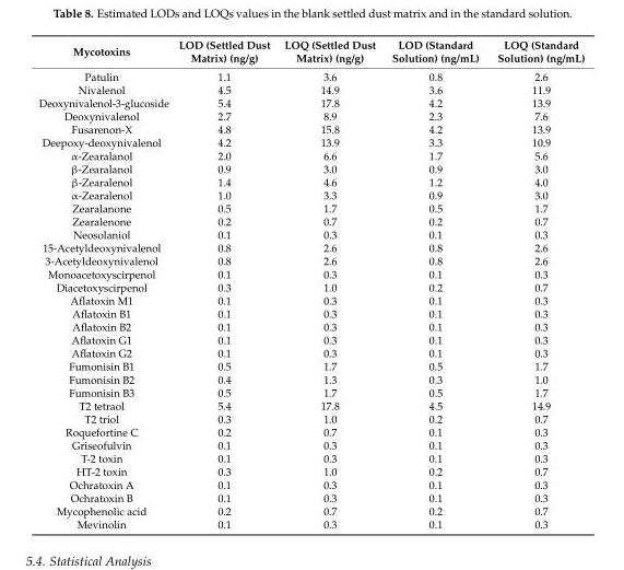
<table><thead><tr><td>Mycotoxins</td><td>LOD (Settled Dust Matrix) (ng/g)</td><td>LOQ (Settled Dust Matrix) (ng/g)</td><td>LOD (Standard Solution) (ng/mL)</td><td>LOQ (Standard Solution) (ng/mL)</td></tr></thead><tbody><tr><td>Patulin</td><td>1.1</td><td>3.6</td><td>0.8</td><td>2.6</td></tr><tr><td>Nivalenol</td><td>4.5</td><td>14.9</td><td>3.6</td><td>11.9</td></tr><tr><td>Deoxynivalenol-3-glucoside</td><td>5.4</td><td>17.8</td><td>4.2</td><td>13.9</td></tr><tr><td>Deoxynivalenol</td><td>2.7</td><td>8.9</td><td>2.3</td><td>7.6</td></tr><tr><td>Fusarenon-X</td><td>4.8</td><td>15.8</td><td>4.2</td><td>13.9</td></tr><tr><td>Deepoxy-deoxynivalenol</td><td>4.2</td><td>13.9</td><td>3.3</td><td>10.9</td></tr><tr><td>α-Zearalanol</td><td>2.0</td><td>6.6</td><td>1.7</td><td>5.6</td></tr><tr><td>β-Zearalanol</td><td>0.9</td><td>3.0</td><td>0.9</td><td>3.0</td></tr><tr><td>β-Zearalenol</td><td>1.4</td><td>4.6</td><td>1.2</td><td>4.0</td></tr><tr><td>α-Zearalenol</td><td>1.0</td><td>3.3</td><td>0.9</td><td>3.0</td></tr><tr><td>Zearalanone</td><td>0.5</td><td>1.7</td><td>0.5</td><td>1.7</td></tr><tr><td>Zearalenone</td><td>0.2</td><td>0.7</td><td>0.2</td><td>0.7</td></tr><tr><td>Neosolaniol</td><td>0.1</td><td>0.3</td><td>0.1</td><td>0.3</td></tr><tr><td>15-Acetyldeoxynivalenol</td><td>0.8</td><td>2.6</td><td>0.8</td><td>2.6</td></tr><tr><td>3-Acetyldeoxynivalenol</td><td>0.8</td><td>2.6</td><td>0.8</td><td>2.6</td></tr><tr><td>Monoacetoxyscirpenol</td><td>0.1</td><td>0.3</td><td>0.1</td><td>0.3</td></tr><tr><td>Diacetoxyscirpenol</td><td>0.3</td><td>1.0</td><td>0.2</td><td>0.7</td></tr><tr><td>Aflatoxin M1</td><td>0.1</td><td>0.3</td><td>0.1</td><td>0.3</td></tr><tr><td>Aflatoxin B1</td><td>0.1</td><td>0.3</td><td>0.1</td><td>0.3</td></tr><tr><td>Aflatoxin B2</td><td>0.1</td><td>0.3</td><td>0.1</td><td>0.3</td></tr><tr><td>Aflatoxin G1</td><td>0.1</td><td>0.3</td><td>0.1</td><td>0.3</td></tr><tr><td>Aflatoxin G2</td><td>0.1</td><td>0.3</td><td>0.1</td><td>0.3</td></tr><tr><td>Fumonisin B1</td><td>0.5</td><td>1.7</td><td>0.5</td><td>1.7</td></tr><tr><td>Fumonisin B2</td><td>0.4</td><td>1.3</td><td>0.3</td><td>1.0</td></tr><tr><td>Fumonisin B3</td><td>0.5</td><td>1.7</td><td>0.5</td><td>1.7</td></tr><tr><td>T2 tetraol</td><td>5.4</td><td>17.8</td><td>4.5</td><td>14.9</td></tr><tr><td>T2 triol</td><td>0.3</td><td>1.0</td><td>0.2</td><td>0.7</td></tr><tr><td>Roquefortine C</td><td>0.2</td><td>0.7</td><td>0.1</td><td>0.3</td></tr><tr><td>Griseofulvin</td><td>0.1</td><td>0.3</td><td>0.1</td><td>0.3</td></tr><tr><td>T-2 toxin</td><td>0.1</td><td>0.3</td><td>0.1</td><td>0.3</td></tr><tr><td>HT-2 toxin</td><td>0.3</td><td>1.0</td><td>0.2</td><td>0.7</td></tr><tr><td>Ochratoxin A</td><td>0.1</td><td>0.3</td><td>0.1</td><td>0.3</td></tr><tr><td>Ochratoxin B</td><td>0.1</td><td>0.3</td><td>0.1</td><td>0.3</td></tr><tr><td>Mycophenolic acid</td><td>0.2</td><td>0.7</td><td>0.2</td><td>0.7</td></tr><tr><td>Mevinolin</td><td>0.1</td><td>0.3</td><td>0.1</td><td>0.3</td></tr></tbody></table>